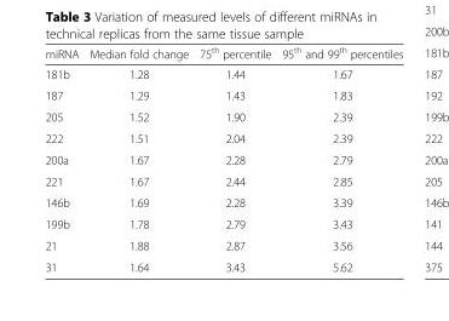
<table><thead><tr><td>miRNA</td><td>Median fold change</td><td>75<sup>th</sup> percentile</td><td>95<sup>th</sup> and 99<sup>th</sup> percentiles</td></tr></thead><tbody><tr><td>181b</td><td>1.28</td><td>1.44</td><td>1.67</td></tr><tr><td>187</td><td>1.29</td><td>1.43</td><td>1.83</td></tr><tr><td>205</td><td>1.52</td><td>1.90</td><td>2.39</td></tr><tr><td>222</td><td>1.51</td><td>2.04</td><td>2.39</td></tr><tr><td>200a</td><td>1.67</td><td>2.28</td><td>2.79</td></tr><tr><td>221</td><td>1.67</td><td>2.44</td><td>2.85</td></tr><tr><td>146b</td><td>1.69</td><td>2.28</td><td>3.39</td></tr><tr><td>199b</td><td>1.78</td><td>2.79</td><td>3.43</td></tr><tr><td>21</td><td>1.88</td><td>2.87</td><td>3.56</td></tr><tr><td>31</td><td>1.64</td><td>3.43</td><td>5.62</td></tr></tbody></table>